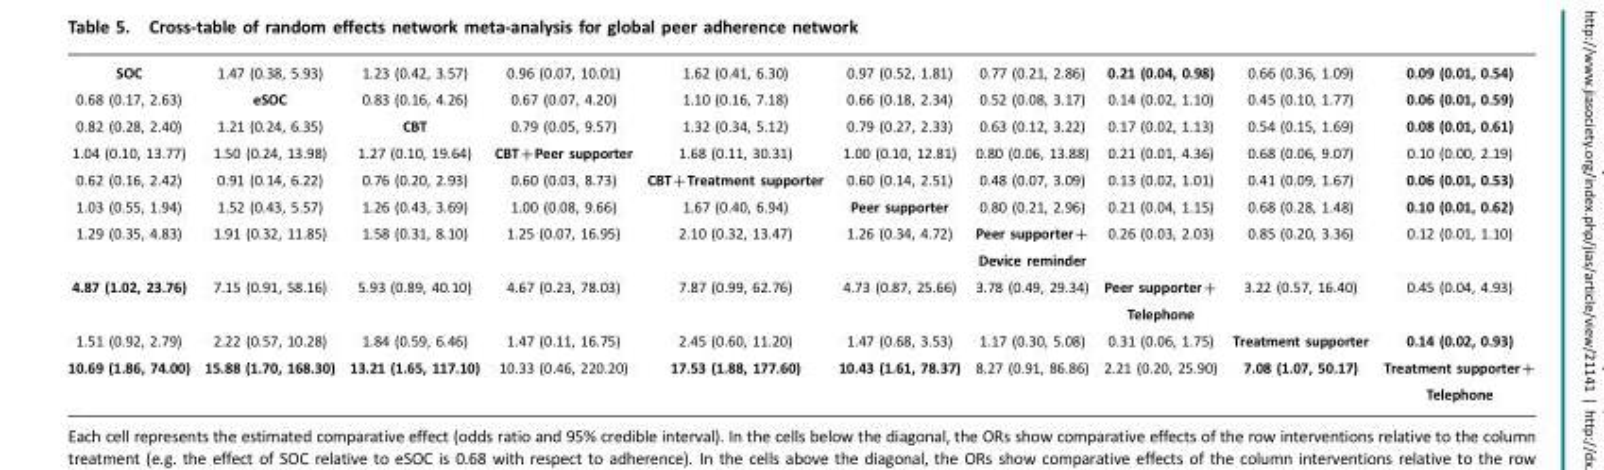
<table><tbody><tr><td>SOC</td><td>1.47 (0.38, 5.93)</td><td>1.23 (0.42, 3.57)</td><td>0.96 (0.07, 10.01)</td><td>1.62 (0.41, 6.30)</td><td>0.97 (0.52, 1.81)</td><td>0.77 (0.21, 2.86)</td><td>0.21 (0.04, 0.98)</td><td>0.66 (0.36, 1.09)</td><td>0.09 (0.01, 0.54)</td></tr><tr><td>0.68 (0.17, 2.63)</td><td>eSOC</td><td>0.83 (0.16, 4.26)</td><td>0.67 (0.07, 4.20)</td><td>1.10 (0.16, 7.18)</td><td>0.66 (0.18, 2.34)</td><td>0.52 (0.08, 3.17)</td><td>0.14 (0.02, 1.10)</td><td>0.45 (0.10, 1.77)</td><td>0.06 (0.01, 0.59)</td></tr><tr><td>0.82 (0.28, 2.40)</td><td>1.21 (0.24, 6.35)</td><td>CBT</td><td>0.79 (0.05, 9.57)</td><td>1.32 (0.34, 5.12)</td><td>0.79 (0.27, 2.33)</td><td>0.63 (0.12, 3.22)</td><td>0.17 (0.02, 1.13)</td><td>0.54 (0.15, 1.69)</td><td>0.08 (0.01, 0.61)</td></tr><tr><td>1.04 (0.10, 13.77)</td><td>1.50 (0.24, 13.98)</td><td>1.27 (0.10, 19.64)</td><td>CBT+Peer supporter</td><td>1.68 (0.11, 30.31)</td><td>1.00 (0.10, 12.81)</td><td>0.80 (0.06, 13.88)</td><td>0.21 (0.01, 4.36)</td><td>0.68 (0.06, 9.07)</td><td>0.10 (0.00, 2.19)</td></tr><tr><td>0.62 (0.16, 2.42)</td><td>0.91 (0.14, 6.22)</td><td>0.76 (0.20, 2.93)</td><td>0.60 (0.03, 8.73)</td><td>CBT+Treatment supporter</td><td>0.60 (0.14, 2.51)</td><td>0.48 (0.07, 3.09)</td><td>0.13 (0.02, 1.01)</td><td>0.41 (0.09, 1.67)</td><td>0.06 (0.01, 0.53)</td></tr><tr><td>1.03 (0.55, 1.94)</td><td>1.52 (0.43, 5.57)</td><td>1.26 (0.43, 3.69)</td><td>1.00 (0.08, 9.66)</td><td>1.67 (0.40, 6.94)</td><td>Peer supporter</td><td>0.80 (0.21, 2.96)</td><td>0.21 (0.04, 1.15)</td><td>0.68 (0.28, 1.48)</td><td>0.10 (0.01, 0.62)</td></tr><tr><td>1.29 (0.35, 4.83)</td><td>1.91 (0.32, 11.85)</td><td>1.58 (0.31, 8.10)</td><td>1.25 (0.07, 16.95)</td><td>2.10 (0.32, 13.47)</td><td>1.26 (0.34, 4.72)</td><td>Peer supporter+ Device reminder</td><td>0.26 (0.03, 2.03)</td><td>0.85 (0.20, 3.36)</td><td>0.12 (0.01, 1.10)</td></tr><tr><td>4.87 (1.02, 23.76)</td><td>7.15 (0.91, 58.16)</td><td>5.93 (0.89, 40.10)</td><td>4.67 (0.23, 78.03)</td><td>7.87 (0.99, 62.76)</td><td>4.73 (0.87, 25.66)</td><td>3.78 (0.49, 29.34)</td><td>Peer supporter+ Telephone</td><td>3.22 (0.57, 16.40)</td><td>0.45 (0.04, 4.93)</td></tr><tr><td>1.51 (0.92, 2.79)</td><td>2.22 (0.57, 10.28)</td><td>1.84 (0.59, 6.46)</td><td>1.47 (0.11, 16.75)</td><td>2.45 (0.60, 11.20)</td><td>1.47 (0.68, 3.53)</td><td>1.17 (0.30, 5.08)</td><td>0.31 (0.06, 1.75)</td><td>Treatment supporter</td><td>0.14 (0.02, 0.93)</td></tr><tr><td>10.69 (1.86, 74.00)</td><td>15.88 (1.70, 168.30)</td><td>13.21 (1.65, 117.10)</td><td>10.33 (0.46, 220.20)</td><td>17.53 (1.88, 177.60)</td><td>10.43 (1.61, 78.37)</td><td>8.27 (0.91, 86.86)</td><td>2.21 (0.20, 25.90)</td><td>7.08 (1.07, 50.17)</td><td>Treatment supporter+ Telephone</td></tr></tbody></table>